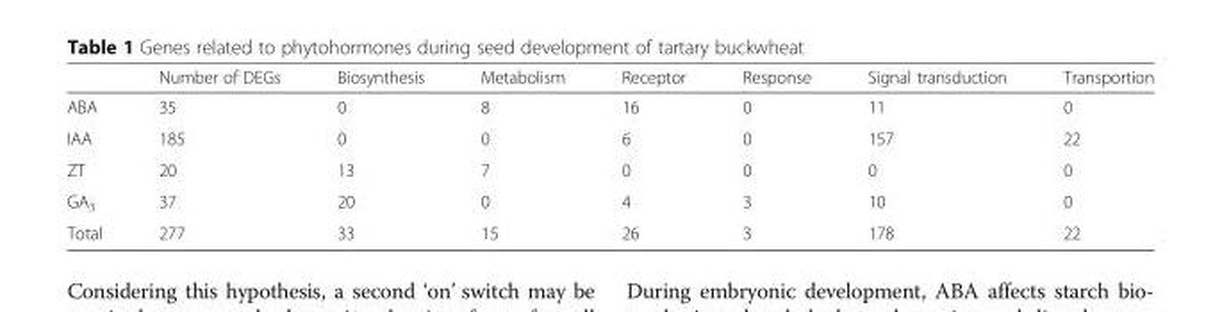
<table><thead><tr><td></td><td>Number of DEGs</td><td>Biosynthesis</td><td>Metabolism</td><td>Receptor</td><td>Response</td><td>Signal transduction</td><td>Transportion</td></tr></thead><tbody><tr><td>ABA</td><td>35</td><td>0</td><td>8</td><td>16</td><td>0</td><td>11</td><td>0</td></tr><tr><td>IAA</td><td>185</td><td>0</td><td>0</td><td>6</td><td>0</td><td>157</td><td>22</td></tr><tr><td>ZT</td><td>20</td><td>13</td><td>7</td><td>0</td><td>0</td><td>0</td><td>0</td></tr><tr><td>GA<sub>3</sub></td><td>37</td><td>20</td><td>0</td><td>4</td><td>3</td><td>10</td><td>0</td></tr><tr><td>Total</td><td>277</td><td>33</td><td>15</td><td>26</td><td>3</td><td>178</td><td>22</td></tr></tbody></table>